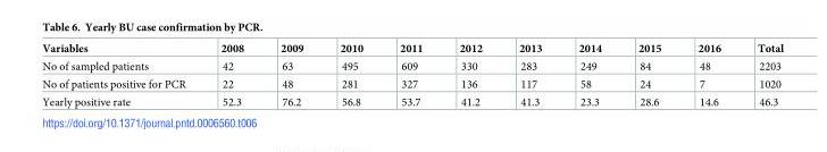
<table><thead><tr><td>Variables</td><td>2008</td><td>2009</td><td>2010</td><td>2011</td><td>2012</td><td>2013</td><td>2014</td><td>2015</td><td>2016</td><td>Total</td></tr></thead><tbody><tr><td>No of sampled patients</td><td>42</td><td>63</td><td>495</td><td>609</td><td>330</td><td>283</td><td>249</td><td>84</td><td>48</td><td>2203</td></tr><tr><td>No of patients positive for PCR</td><td>22</td><td>48</td><td>281</td><td>327</td><td>136</td><td>117</td><td>58</td><td>24</td><td>7</td><td>1020</td></tr><tr><td>Yearly positive rate</td><td>52.3</td><td>76.2</td><td>56.8</td><td>53.7</td><td>41.2</td><td>41.3</td><td>23.3</td><td>28.6</td><td>14.6</td><td>46.3</td></tr></tbody></table>